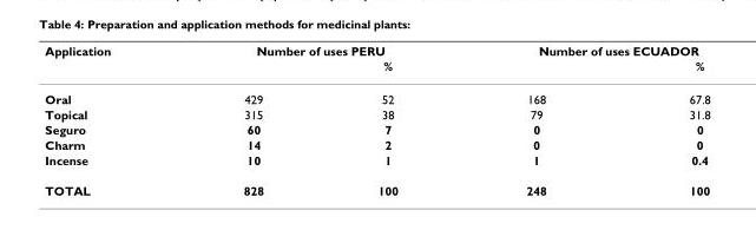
<table><thead><tr><td rowspan="2">Application</td><td colspan="2">Number of uses PERU</td><td colspan="2">Number of uses ECUADOR</td></tr><tr><td></td><td>%</td><td></td><td>%</td></tr></thead><tbody><tr><td>Oral</td><td>429</td><td>52</td><td>168</td><td>67.8</td></tr><tr><td>Topical</td><td>315</td><td>38</td><td>79</td><td>31.8</td></tr><tr><td>Seguro</td><td>60</td><td>7</td><td>0</td><td>0</td></tr><tr><td>Charm</td><td>14</td><td>2</td><td>0</td><td>0</td></tr><tr><td>Incense</td><td>10</td><td>1</td><td>1</td><td>0.4</td></tr><tr><td>TOTAL</td><td>828</td><td>100</td><td>248</td><td>100</td></tr></tbody></table>